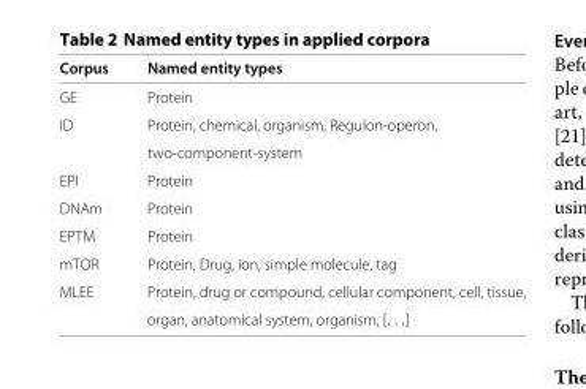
<table><thead><tr><td>Corpus</td><td>Named entity types</td></tr></thead><tbody><tr><td>GE</td><td>Protein</td></tr><tr><td rowspan="2">ID</td><td>Protein, chemical, organism, Regulon-operon,</td></tr><tr><td>two-component-system</td></tr><tr><td>EPI</td><td>Protein</td></tr><tr><td>DNAm</td><td>Protein</td></tr><tr><td>EPTM</td><td>Protein</td></tr><tr><td>mTOR</td><td>Protein, Drug, ion, simple molecule, tag</td></tr><tr><td rowspan="2">MLEE</td><td>Protein, drug or compound, cellular component, cell, tissue,</td></tr><tr><td>organ, anatomical system, organism, [. . .]</td></tr></tbody></table>